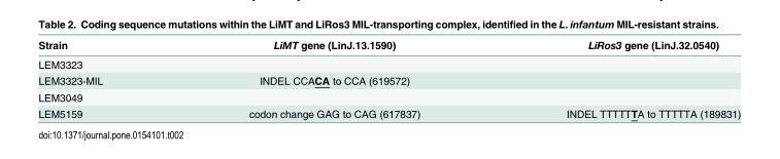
<table><thead><tr><td>Strain</td><td>LiMT gene (LinJ.13.1590)</td><td>LiRos3 gene (LinJ.32.0540)</td></tr></thead><tbody><tr><td colspan="3">LEM3323</td></tr><tr><td>LEM3323-MIL</td><td>INDEL CCACA to CCA (619572)</td><td></td></tr><tr><td colspan="3">LEM3049</td></tr><tr><td>LEM5159</td><td>codon change GAG to CAG (617837)</td><td>INDEL TTTTTTA to TTTTTA (189831)</td></tr></tbody></table>